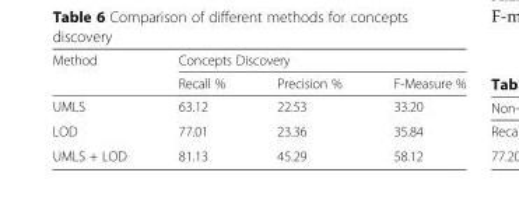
<table><thead><tr><td rowspan="2">Method</td><td colspan="3">Concepts Discovery</td></tr><tr><td>Recall %</td><td>Precision %</td><td>F-Measure %</td></tr></thead><tbody><tr><td>UMLS</td><td>63.12</td><td>22.53</td><td>33.20</td></tr><tr><td>LOD</td><td>77.01</td><td>23.36</td><td>35.84</td></tr><tr><td>UMLS + LOD</td><td>81.13</td><td>45.29</td><td>58.12</td></tr></tbody></table>